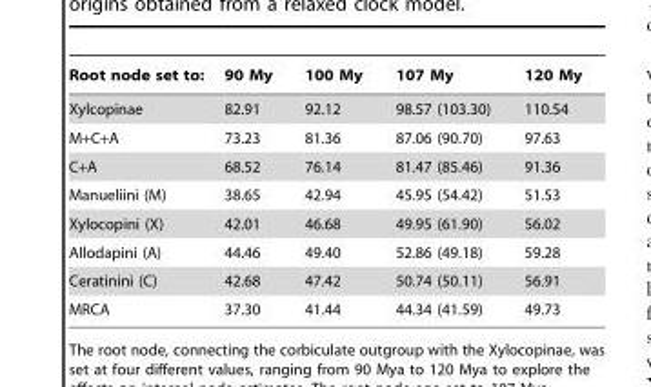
<table><thead><tr><td>Root node set to:</td><td>90 My</td><td>100 My</td><td>107 My</td><td>120 My</td></tr></thead><tbody><tr><td>Xylcopinae</td><td>82.91</td><td>92.12</td><td>98.57 (103.30)</td><td>110.54</td></tr><tr><td>M+C+A</td><td>73.23</td><td>81.36</td><td>87.06 (90.70)</td><td>97.63</td></tr><tr><td>C+A</td><td>68.52</td><td>76.14</td><td>81.47 (85.46)</td><td>91.36</td></tr><tr><td>Manueliini (M)</td><td>38.65</td><td>42.94</td><td>45.95 (54.42)</td><td>51.53</td></tr><tr><td>Xylocopini (X)</td><td>42.01</td><td>46.68</td><td>49.95 (61.90)</td><td>56.02</td></tr><tr><td>Allodapini (A)</td><td>44.46</td><td>49.40</td><td>52.86 (49.18)</td><td>59.28</td></tr><tr><td>Ceratinini (C)</td><td>42.68</td><td>47.42</td><td>50.74 (50.11)</td><td>56.91</td></tr><tr><td>MRCA</td><td>37.30</td><td>41.44</td><td>44.34 (41.59)</td><td>49.73</td></tr></tbody></table>